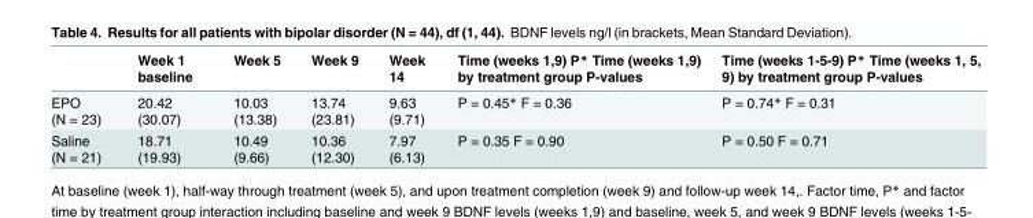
<table><thead><tr><td></td><td>Week 1 baseline</td><td>Week 5</td><td>Week 9</td><td>Week 14</td><td>Time (weeks 1,9) P* Time (weeks 1,9) by treatment group P-values</td><td>Time (weeks 1-5-9) P* Time (weeks 1, 5, 9) by treatment group P-values</td></tr></thead><tbody><tr><td>EPO (N = 23)</td><td>20.42 (30.07)</td><td>10.03 (13.38)</td><td>13.74 (23.81)</td><td>9.63 (9.71)</td><td>P = 0.45* F = 0.36</td><td>P = 0.74* F = 0.31</td></tr><tr><td>Saline (N = 21)</td><td>18.71 (19.93)</td><td>10.49 (9.66)</td><td>10.36 (12.30)</td><td>7.97 (6.13)</td><td>P = 0.35 F = 0.90</td><td>P = 0.50 F = 0.71</td></tr></tbody></table>